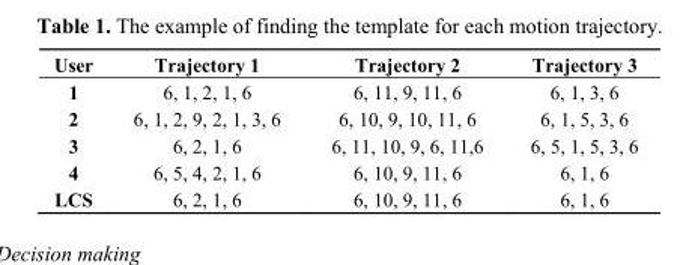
<table><thead><tr><td>User</td><td>Trajectory 1</td><td>Trajectory 2</td><td>Trajectory 3</td></tr></thead><tbody><tr><td>1</td><td>6, 1, 2, 1, 6</td><td>6, 11, 9, 11, 6</td><td>6, 1, 3, 6</td></tr><tr><td>2</td><td>6, 1, 2, 9, 2, 1, 3, 6</td><td>6, 10, 9, 10, 11, 6</td><td>6, 1, 5, 3, 6</td></tr><tr><td>3</td><td>6, 2, 1, 6</td><td>6, 11, 10, 9, 6, 11,6</td><td>6, 5, 1, 5, 3, 6</td></tr><tr><td>4</td><td>6, 5, 4, 2, 1, 6</td><td>6, 10, 9, 11, 6</td><td>6, 1, 6</td></tr><tr><td>LCS</td><td>6, 2, 1, 6</td><td>6, 10, 9, 11, 6</td><td>6, 1, 6</td></tr></tbody></table>